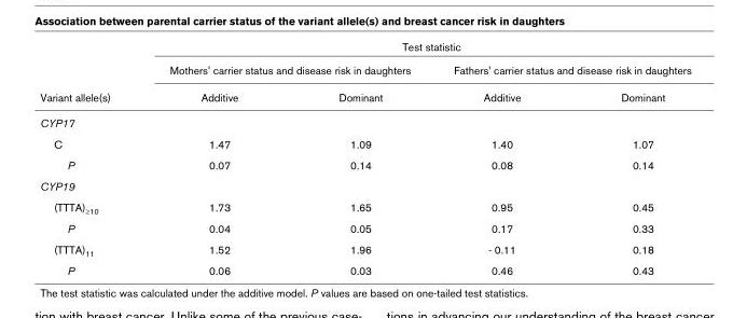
<table><thead><tr><td rowspan="3">Variant allele(s)</td><td colspan="4">Test statistic</td></tr><tr><td colspan="2">Mothers&#x27; carrier status and disease risk in daughters</td><td colspan="2">Fathers&#x27; carrier status and disease risk in daughters</td></tr><tr><td>Additive</td><td>Dominant</td><td>Additive</td><td>Dominant</td></tr></thead><tbody><tr><td colspan="5">CYP17</td></tr><tr><td>C</td><td>1.47</td><td>1.09</td><td>1.40</td><td>1.07</td></tr><tr><td>P</td><td>0.07</td><td>0.14</td><td>0.08</td><td>0.14</td></tr><tr><td colspan="5">CYP19</td></tr><tr><td>(TTTA)≥10</td><td>1.73</td><td>1.65</td><td>0.95</td><td>0.45</td></tr><tr><td>P</td><td>0.04</td><td>0.05</td><td>0.17</td><td>0.33</td></tr><tr><td>(TTTA)11</td><td>1.52</td><td>1.96</td><td>- 0.11</td><td>0.18</td></tr><tr><td>P</td><td>0.06</td><td>0.03</td><td>0.46</td><td>0.43</td></tr></tbody></table>